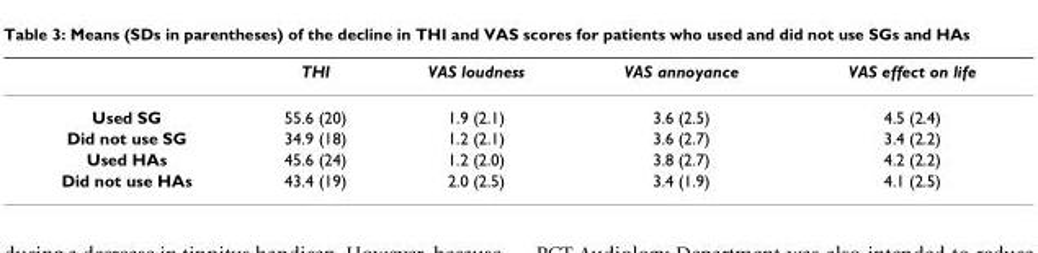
<table><thead><tr><td></td><td>THI</td><td>VAS loudness</td><td>VAS annoyance</td><td>VAS effect on life</td></tr></thead><tbody><tr><td>Used SG</td><td>55.6 (20)</td><td>1.9 (2.1)</td><td>3.6 (2.5)</td><td>4.5 (2.4)</td></tr><tr><td>Did not use SG</td><td>34.9 (18)</td><td>1.2 (2.1)</td><td>3.6 (2.7)</td><td>3.4 (2.2)</td></tr><tr><td>Used HAs</td><td>45.6 (24)</td><td>1.2 (2.0)</td><td>3.8 (2.7)</td><td>4.2 (2.2)</td></tr><tr><td>Did not use HAs</td><td>43.4 (19)</td><td>2.0 (2.5)</td><td>3.4 (1.9)</td><td>4.1 (2.5)</td></tr></tbody></table>